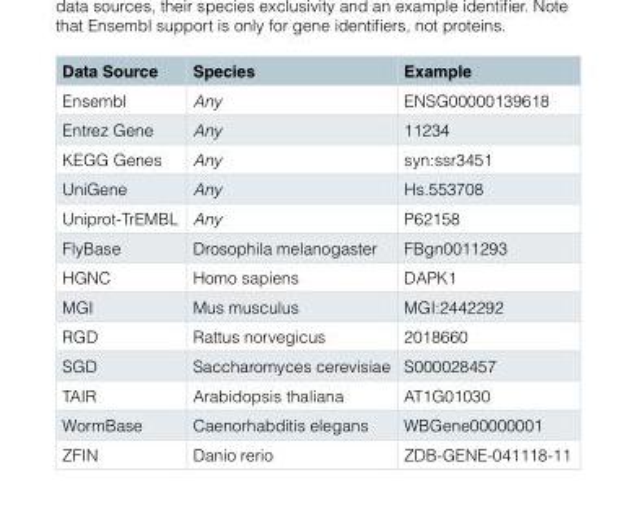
<table><thead><tr><td>Data Source</td><td>Species</td><td>Example</td></tr></thead><tbody><tr><td>Ensembl</td><td>Any</td><td>ENSG00000139618</td></tr><tr><td>Entrez Gene</td><td>Any</td><td>11234</td></tr><tr><td>KEGG Genes</td><td>Any</td><td>syn:ssr3451</td></tr><tr><td>UniGene</td><td>Any</td><td>Hs.553708</td></tr><tr><td>Uniprot-TrEMBL</td><td>Any</td><td>P62158</td></tr><tr><td>FlyBase</td><td>Drosophila melanogaster</td><td>FBgn0011293</td></tr><tr><td>HGNC</td><td>Homo sapiens</td><td>DAPK1</td></tr><tr><td>MGI</td><td>Mus musculus</td><td>MGI:2442292</td></tr><tr><td>RGD</td><td>Rattus norvegicus</td><td>2018660</td></tr><tr><td>SGD</td><td>Saccharomyces cerevisiae</td><td>S000028457</td></tr><tr><td>TAIR</td><td>Arabidopsis thaliana</td><td>AT1G01030</td></tr><tr><td>WormBase</td><td>Caenorhabditis elegans</td><td>WBGene00000001</td></tr><tr><td>ZFIN</td><td>Danio rerio</td><td>ZDB-GENE-041118-11</td></tr></tbody></table>